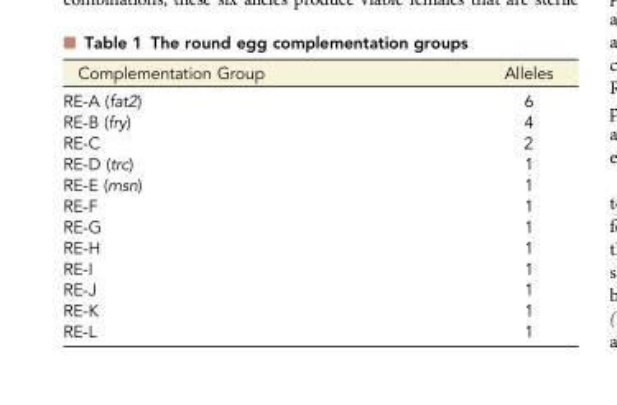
<table><thead><tr><td>Complementation Group</td><td>Alleles</td></tr></thead><tbody><tr><td>RE-A (fat2)</td><td>6</td></tr><tr><td>RE-B (fry)</td><td>4</td></tr><tr><td>RE-C</td><td>2</td></tr><tr><td>RE-D (trc)</td><td>1</td></tr><tr><td>RE-E (msn)</td><td>1</td></tr><tr><td>RE-F</td><td>1</td></tr><tr><td>RE-G</td><td>1</td></tr><tr><td>RE-H</td><td>1</td></tr><tr><td>RE-I</td><td>1</td></tr><tr><td>RE-J</td><td>1</td></tr><tr><td>RE-K</td><td>1</td></tr><tr><td>RE-L</td><td>1</td></tr></tbody></table>